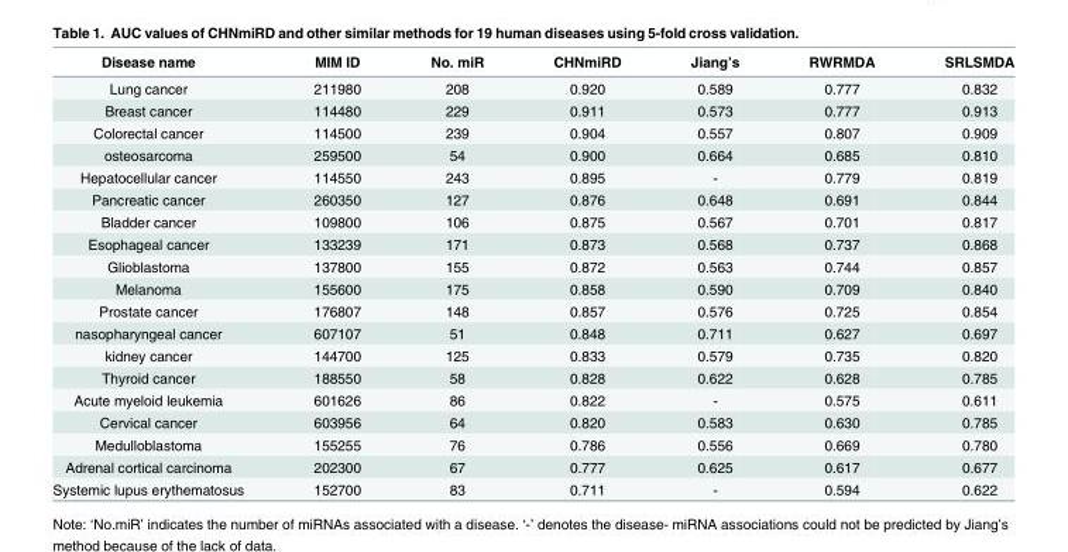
<table><thead><tr><td>Disease name</td><td>MIM ID</td><td>No. miR</td><td>CHNmiRD</td><td>Jiang’s</td><td>RWRMDA</td><td>SRLSMDA</td></tr></thead><tbody><tr><td>Lung cancer</td><td>211980</td><td>208</td><td>0.920</td><td>0.589</td><td>0.777</td><td>0.832</td></tr><tr><td>Breast cancer</td><td>114480</td><td>229</td><td>0.911</td><td>0.573</td><td>0.777</td><td>0.913</td></tr><tr><td>Colorectal cancer</td><td>114500</td><td>239</td><td>0.904</td><td>0.557</td><td>0.807</td><td>0.909</td></tr><tr><td>osteosarcoma</td><td>259500</td><td>54</td><td>0.900</td><td>0.664</td><td>0.685</td><td>0.810</td></tr><tr><td>Hepatocellular cancer</td><td>114550</td><td>243</td><td>0.895</td><td>-</td><td>0.779</td><td>0.819</td></tr><tr><td>Pancreatic cancer</td><td>260350</td><td>127</td><td>0.876</td><td>0.648</td><td>0.691</td><td>0.844</td></tr><tr><td>Bladder cancer</td><td>109800</td><td>106</td><td>0.875</td><td>0.567</td><td>0.701</td><td>0.817</td></tr><tr><td>Esophageal cancer</td><td>133239</td><td>171</td><td>0.873</td><td>0.568</td><td>0.737</td><td>0.868</td></tr><tr><td>Glioblastoma</td><td>137800</td><td>155</td><td>0.872</td><td>0.563</td><td>0.744</td><td>0.857</td></tr><tr><td>Melanoma</td><td>155600</td><td>175</td><td>0.858</td><td>0.590</td><td>0.709</td><td>0.840</td></tr><tr><td>Prostate cancer</td><td>176807</td><td>148</td><td>0.857</td><td>0.576</td><td>0.725</td><td>0.854</td></tr><tr><td>nasopharyngeal cancer</td><td>607107</td><td>51</td><td>0.848</td><td>0.711</td><td>0.627</td><td>0.697</td></tr><tr><td>kidney cancer</td><td>144700</td><td>125</td><td>0.833</td><td>0.579</td><td>0.735</td><td>0.820</td></tr><tr><td>Thyroid cancer</td><td>188550</td><td>58</td><td>0.828</td><td>0.622</td><td>0.628</td><td>0.785</td></tr><tr><td>Acute myeloid leukemia</td><td>601626</td><td>86</td><td>0.822</td><td>-</td><td>0.575</td><td>0.611</td></tr><tr><td>Cervical cancer</td><td>603956</td><td>64</td><td>0.820</td><td>0.583</td><td>0.630</td><td>0.785</td></tr><tr><td>Medulloblastoma</td><td>155255</td><td>76</td><td>0.786</td><td>0.556</td><td>0.669</td><td>0.780</td></tr><tr><td>Adrenal cortical carcinoma</td><td>202300</td><td>67</td><td>0.777</td><td>0.625</td><td>0.617</td><td>0.677</td></tr><tr><td>Systemic lupus erythematosus</td><td>152700</td><td>83</td><td>0.711</td><td>-</td><td>0.594</td><td>0.622</td></tr></tbody></table>